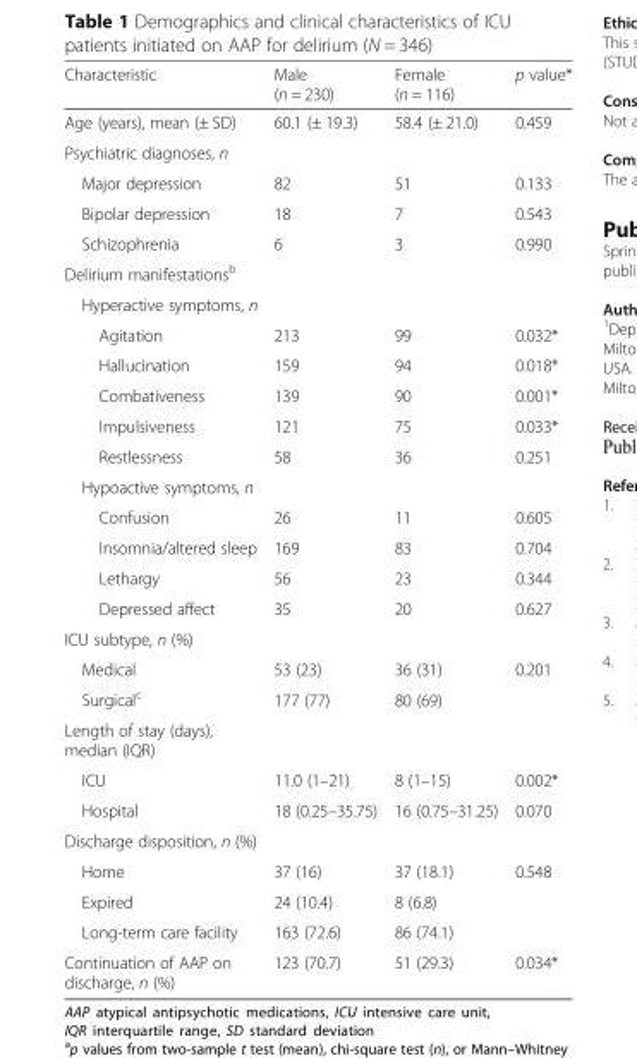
<table><thead><tr><td>Characteristic</td><td>Male (n = 230)</td><td>Female (n = 116)</td><td>p value*</td></tr></thead><tbody><tr><td>Age (years), mean (± SD)</td><td>60.1 (± 19.3)</td><td>58.4 (± 21.0)</td><td>0.459</td></tr><tr><td colspan="4">Psychiatric diagnoses, n</td></tr><tr><td>Major depression</td><td>82</td><td>51</td><td>0.133</td></tr><tr><td>Bipolar depression</td><td>18</td><td>7</td><td>0.543</td></tr><tr><td>Schizophrenia</td><td>6</td><td>3</td><td>0.990</td></tr><tr><td colspan="4">Delirium manifestations<sup>b</sup></td></tr><tr><td colspan="4">Hyperactive symptoms, n</td></tr><tr><td>Agitation</td><td>213</td><td>99</td><td>0.032*</td></tr><tr><td>Hallucination</td><td>159</td><td>94</td><td>0.018*</td></tr><tr><td>Combativeness</td><td>139</td><td>90</td><td>0.001*</td></tr><tr><td>Impulsiveness</td><td>121</td><td>75</td><td>0.033*</td></tr><tr><td>Restlessness</td><td>58</td><td>36</td><td>0.251</td></tr><tr><td colspan="4">Hypoactive symptoms, n</td></tr><tr><td>Confusion</td><td>26</td><td>11</td><td>0.605</td></tr><tr><td>Insomnia/altered sleep</td><td>169</td><td>83</td><td>0.704</td></tr><tr><td>Lethargy</td><td>56</td><td>23</td><td>0.344</td></tr><tr><td>Depressed affect</td><td>35</td><td>20</td><td>0.627</td></tr><tr><td colspan="4">ICU subtype, n (%)</td></tr><tr><td>Medical</td><td>53 (23)</td><td>36 (31)</td><td>0.201</td></tr><tr><td>Surgical<sup>c</sup></td><td>177 (77)</td><td>80 (69)</td><td></td></tr><tr><td colspan="4">Length of stay (days), median (IQR)</td></tr><tr><td>ICU</td><td>11.0 (1–21)</td><td>8 (1–15)</td><td>0.002*</td></tr><tr><td>Hospital</td><td>18 (0.25–35.75)</td><td>16 (0.75–31.25)</td><td>0.070</td></tr><tr><td colspan="4">Discharge disposition, n (%)</td></tr><tr><td>Home</td><td>37 (16)</td><td>37 (18.1)</td><td>0.548</td></tr><tr><td>Expired</td><td>24 (10.4)</td><td>8 (6.8)</td><td></td></tr><tr><td>Long-term care facility</td><td>163 (72.6)</td><td>86 (74.1)</td><td></td></tr><tr><td>Continuation of AAP on discharge, n (%)</td><td>123 (70.7)</td><td>51 (29.3)</td><td>0.034*</td></tr></tbody></table>